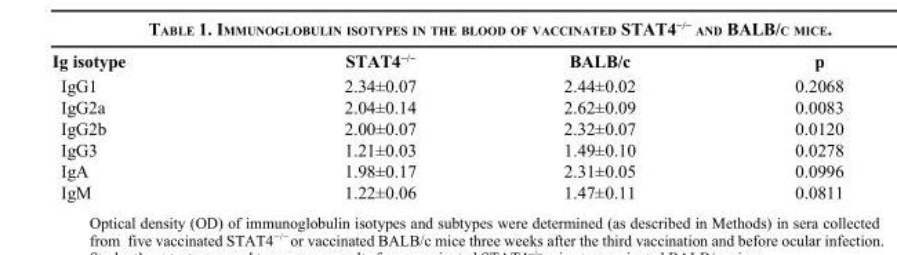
<table><thead><tr><td>Ig isotype</td><td>STAT4<sup>−/−</sup></td><td>BALB/c</td><td>p</td></tr></thead><tbody><tr><td>IgG1</td><td>2.34±0.07</td><td>2.44±0.02</td><td>0.2068</td></tr><tr><td>IgG2a</td><td>2.04±0.14</td><td>2.62±0.09</td><td>0.0083</td></tr><tr><td>IgG2b</td><td>2.00±0.07</td><td>2.32±0.07</td><td>0.0120</td></tr><tr><td>IgG3</td><td>1.21±0.03</td><td>1.49±0.10</td><td>0.0278</td></tr><tr><td>IgA</td><td>1.98±0.17</td><td>2.31±0.05</td><td>0.0996</td></tr><tr><td>IgM</td><td>1.22±0.06</td><td>1.47±0.11</td><td>0.0811</td></tr></tbody></table>